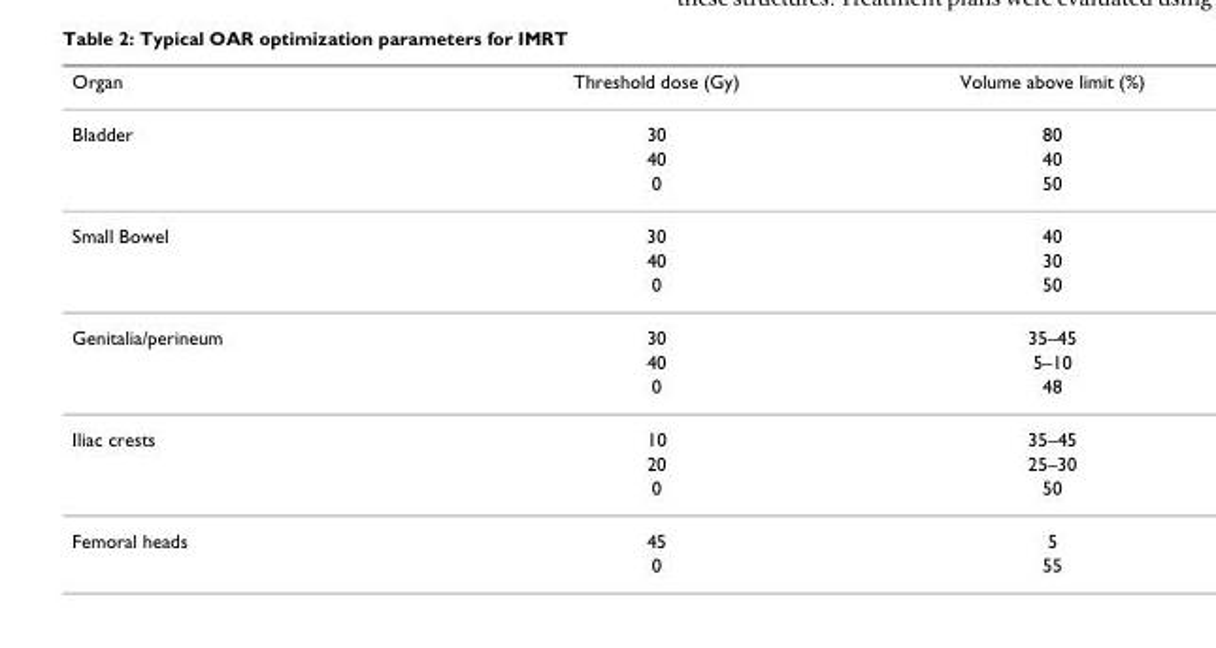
<table><thead><tr><td>Organ</td><td>Threshold dose (Gy)</td><td>Volume above limit (%)</td></tr></thead><tbody><tr><td rowspan="3">Bladder</td><td>30</td><td>80</td></tr><tr><td>40</td><td>40</td></tr><tr><td>0</td><td>50</td></tr><tr><td rowspan="3">Small Bowel</td><td>30</td><td>40</td></tr><tr><td>40</td><td>30</td></tr><tr><td>0</td><td>50</td></tr><tr><td rowspan="3">Genitalia/perineum</td><td>30</td><td>35–45</td></tr><tr><td>40</td><td>5–10</td></tr><tr><td>0</td><td>48</td></tr><tr><td rowspan="3">Iliac crests</td><td>10</td><td>35–45</td></tr><tr><td>20</td><td>25–30</td></tr><tr><td>0</td><td>50</td></tr><tr><td rowspan="2">Femoral heads</td><td>45</td><td>5</td></tr><tr><td>0</td><td>55</td></tr></tbody></table>